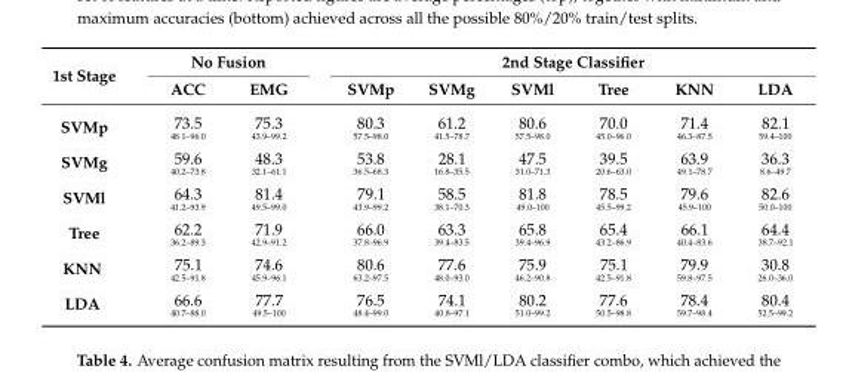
<table><thead><tr><td rowspan="2">1st Stage</td><td colspan="2">No Fusion</td><td colspan="6">2nd Stage Classifier</td></tr><tr><td>ACC</td><td>EMG</td><td>SVMp</td><td>SVMg</td><td>SVMl</td><td>Tree</td><td>KNN</td><td>LDA</td></tr></thead><tbody><tr><td>SVMp</td><td>73.5 48.1–96.0</td><td>75.3 43.9–99.2</td><td>80.3 57.5–98.0</td><td>61.2 41.5–78.7</td><td>80.6 57.5–98.0</td><td>70.0 45.0–96.0</td><td>71.4 46.3–87.5</td><td>82.1 59.4–100</td></tr><tr><td>SVMg</td><td>59.6 40.2–73.8</td><td>48.3 32.1–61.1</td><td>53.8 36.5–68.3</td><td>28.1 16.8–35.5</td><td>47.5 31.0–71.3</td><td>39.5 20.6–63.0</td><td>63.9 49.1–78.7</td><td>36.3 8.6–49.7</td></tr><tr><td>SVMl</td><td>64.3 41.2–93.9</td><td>81.4 49.5–99.0</td><td>79.1 43.9–99.2</td><td>58.5 38.1–70.3</td><td>81.8 49.0–100</td><td>78.5 45.5–99.2</td><td>79.6 45.9–100</td><td>82.6 50.0–100</td></tr><tr><td>Tree</td><td>62.2 36.2–89.3</td><td>71.9 42.9–91.2</td><td>66.0 37.8–96.9</td><td>63.3 39.4–83.5</td><td>65.8 39.4–96.9</td><td>65.4 43.2–86.9</td><td>66.1 40.4–83.6</td><td>64.4 38.7–92.1</td></tr><tr><td>KNN</td><td>75.1 42.5–91.8</td><td>74.6 45.9–96.1</td><td>80.6 63.2–97.5</td><td>77.6 48.0–93.0</td><td>75.9 46.2–90.8</td><td>75.1 42.5–91.8</td><td>79.9 59.8–97.5</td><td>30.8 26.0–36.0</td></tr><tr><td>LDA</td><td>66.6 40.7–88.0</td><td>77.7 49.5–100</td><td>76.5 48.4–99.0</td><td>74.1 40.8–97.1</td><td>80.2 51.0–99.2</td><td>77.6 50.5–98.8</td><td>78.4 59.7–98.4</td><td>80.4 52.5–99.2</td></tr></tbody></table>